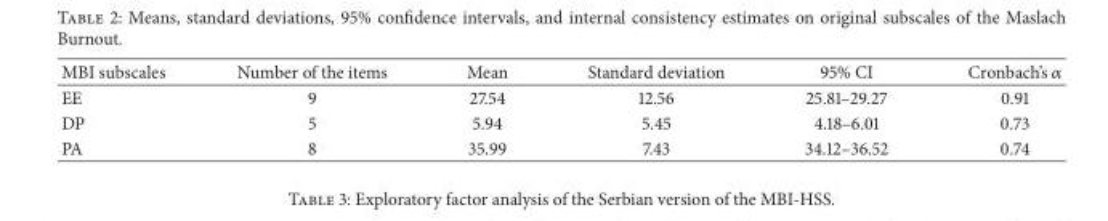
<table><thead><tr><td>MBI subscales</td><td>Number of the items</td><td>Mean</td><td>Standard deviation</td><td>95% CI</td><td>Cronbach’s</td></tr></thead><tbody><tr><td>EE</td><td>9</td><td>27.54</td><td>12.56</td><td>25.81–29.27</td><td>0.91</td></tr><tr><td>DP</td><td>5</td><td>5.94</td><td>5.45</td><td>4.18–6.01</td><td>0.73</td></tr><tr><td>PA</td><td>8</td><td>35.99</td><td>7.43</td><td>34.12–36.52</td><td>0.74</td></tr></tbody></table>